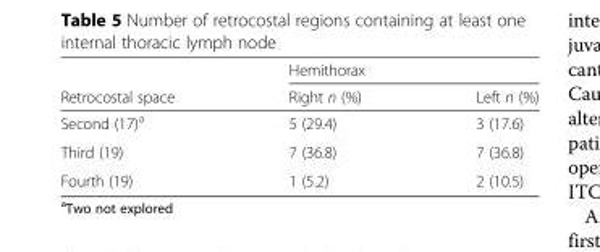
<table><thead><tr><td rowspan="2">Retrocostal space</td><td colspan="2">Hemithorax</td></tr><tr><td>Right n (%)</td><td>Left n (%)</td></tr></thead><tbody><tr><td>Second (17)<sup>a</sup></td><td>5 (29.4)</td><td>3 (17.6)</td></tr><tr><td>Third (19)</td><td>7 (36.8)</td><td>7 (36.8)</td></tr><tr><td>Fourth (19)</td><td>1 (5.2)</td><td>2 (10.5)</td></tr></tbody></table>